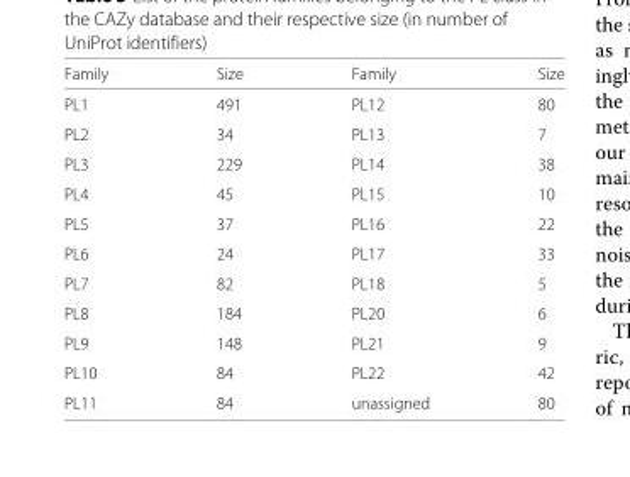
<table><thead><tr><td>Family</td><td>Size</td><td>Family</td><td>Size</td></tr></thead><tbody><tr><td>PL1</td><td>491</td><td>PL12</td><td>80</td></tr><tr><td>PL2</td><td>34</td><td>PL13</td><td>7</td></tr><tr><td>PL3</td><td>229</td><td>PL14</td><td>38</td></tr><tr><td>PL4</td><td>45</td><td>PL15</td><td>10</td></tr><tr><td>PL5</td><td>37</td><td>PL16</td><td>22</td></tr><tr><td>PL6</td><td>24</td><td>PL17</td><td>33</td></tr><tr><td>PL7</td><td>82</td><td>PL18</td><td>5</td></tr><tr><td>PL8</td><td>184</td><td>PL20</td><td>6</td></tr><tr><td>PL9</td><td>148</td><td>PL21</td><td>9</td></tr><tr><td>PL10</td><td>84</td><td>PL22</td><td>42</td></tr><tr><td>PL11</td><td>84</td><td>unassigned</td><td>80</td></tr></tbody></table>